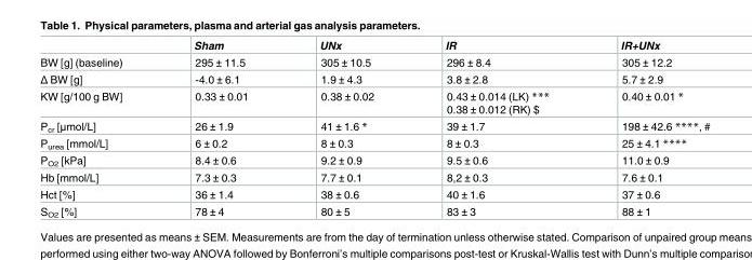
<table><thead><tr><td></td><td>Sham</td><td>UNx</td><td>IR</td><td>IR+UNx</td></tr></thead><tbody><tr><td>BW [g] (baseline)</td><td>295 ± 11.5</td><td>305 ± 10.5</td><td>296 ± 8.4</td><td>305 ± 12.2</td></tr><tr><td>Δ BW [g]</td><td>-4.0 ± 6.1</td><td>1.9 ± 4.3</td><td>3.8 ± 2.8</td><td>5.7 ± 2.9</td></tr><tr><td>KW [g/100 g BW]</td><td>0.33 ± 0.01</td><td>0.38 ± 0.02</td><td>0.43 ± 0.014 (LK) *** 0.38 ± 0.012 (RK) $</td><td>0.40 ± 0.01 *</td></tr><tr><td>P<sub>cr</sub> [μmol/L]</td><td>26 ± 1.9</td><td>41 ± 1.6 *</td><td>39 ± 1.7</td><td>198 ± 42.6 ****, #</td></tr><tr><td>P<sub>urea</sub> [mmol/L]</td><td>6 ± 0.2</td><td>8 ± 0.3</td><td>8 ± 0.3</td><td>25 ± 4.1 ****</td></tr><tr><td>P<sub>O2</sub> [kPa]</td><td>8.4 ± 0.6</td><td>9.2 ± 0.9</td><td>9.5 ± 0.6</td><td>11.0 ± 0.9</td></tr><tr><td>Hb [mmol/L]</td><td>7.3 ± 0.3</td><td>7.7 ± 0.1</td><td>8,2 ± 0.3</td><td>7.6 ± 0.1</td></tr><tr><td>Hct [%]</td><td>36 ± 1.4</td><td>38 ± 0.6</td><td>40 ± 1.6</td><td>37 ± 0.6</td></tr><tr><td>S<sub>O2</sub> [%]</td><td>78 ± 4</td><td>80 ± 5</td><td>83 ± 3</td><td>88 ± 1</td></tr></tbody></table>